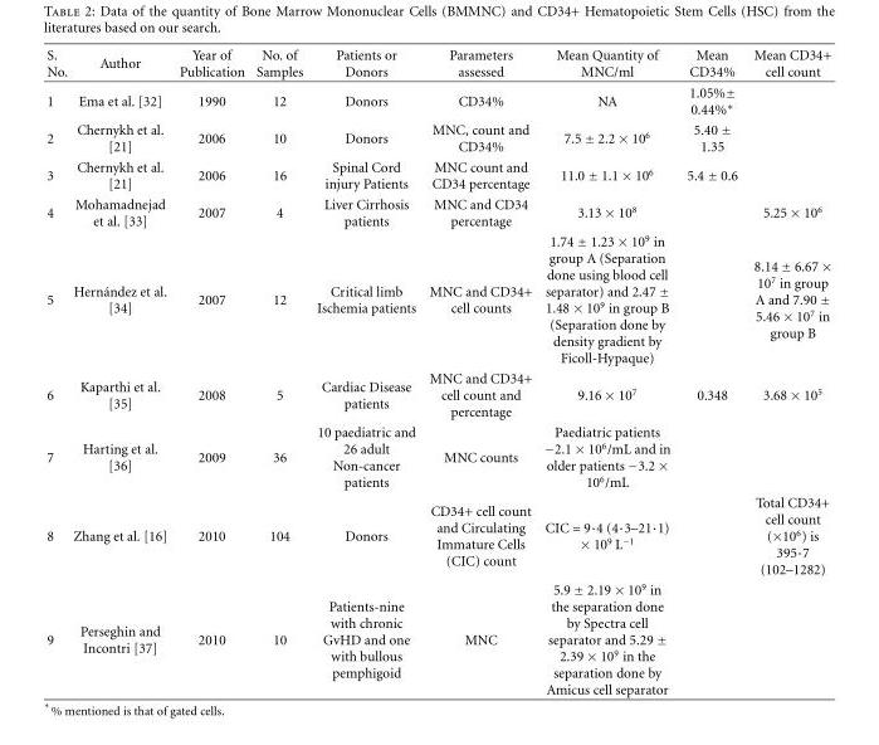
<table><thead><tr><td>S. No.</td><td>Author</td><td>Year of Publication</td><td>No. of Samples</td><td>Patients or Donors</td><td>Parameters assessed</td><td>Mean Quantity of MNC/ml</td><td>Mean CD34%</td><td>Mean CD34+ cell count</td></tr></thead><tbody><tr><td>1</td><td>Ema et al. [32]</td><td>1990</td><td>12</td><td>Donors</td><td>CD34%</td><td>NA</td><td>1.05%± 0.44%∗</td><td></td></tr><tr><td>2</td><td>Chernykh et al. [21]</td><td>2006</td><td>10</td><td>Donors</td><td>MNC, count and CD34%</td><td>7.5 ± 2.2 × 10<sup>6</sup></td><td>5.40 ± 1.35</td><td></td></tr><tr><td>3</td><td>Chernykh et al. [21]</td><td>2006</td><td>16</td><td>Spinal Cord injury Patients</td><td>MNC count and CD34 percentage</td><td>11.0 ± 1.1 × 10<sup>6</sup></td><td>5.4 ± 0.6</td><td></td></tr><tr><td>4</td><td>Mohamadnejad et al. [33]</td><td>2007</td><td>4</td><td>Liver Cirrhosis patients</td><td>MNC and CD34 percentage</td><td>3.13 × 10<sup>8</sup></td><td></td><td>5.25 × 10<sup>6</sup></td></tr><tr><td>5</td><td>Hern´andez et al. [34]</td><td>2007</td><td>12</td><td>Critical limb Ischemia patients</td><td>MNC and CD34+ cell counts</td><td>1.74 ± 1.23 × 10<sup>9</sup> in group A (Separation done using blood cell separator) and 2.47 ± 1.48 × 10<sup>9</sup> in group B (Separation done by density gradient by Ficoll-Hypaque)</td><td></td><td>8.14 ± 6.67 × 10<sup>7</sup> in group A and 7.90 ± 5.46 × 10<sup>7</sup> in group B</td></tr><tr><td>6</td><td>Kaparthi et al. [35]</td><td>2008</td><td>5</td><td>Cardiac Disease patients</td><td>MNC and CD34+ cell count and percentage</td><td>9.16 × 10<sup>7</sup></td><td>0.348</td><td>3.68 × 10<sup>5</sup></td></tr><tr><td>7</td><td>Harting et al. [36]</td><td>2009</td><td>36</td><td>10 paediatric and 26 adult Non-cancer patients</td><td>MNC counts</td><td>Paediatric patients −2.1 × 10<sup>6</sup>/mL and in older patients −3.2 × 10<sup>6</sup>/mL</td><td></td><td></td></tr><tr><td>8</td><td>Zhang et al. [16]</td><td>2010</td><td>104</td><td>Donors</td><td>CD34+ cell count and Circulating Immature Cells (CIC) count</td><td>CIC = 9·4 (4·3–21·1) × 10<sup>9</sup> L<sup>−1</sup></td><td></td><td>Total CD34+ cell count (×10<sup>6</sup>) is 395·7 (102–1282)</td></tr><tr><td>9</td><td>Perseghin and Incontri [37]</td><td>2010</td><td>10</td><td>Patients-nine with chronic GvHD and one with bullous pemphigoid</td><td>MNC</td><td>5.9 ± 2.19 × 10<sup>9</sup> in the separation done by Spectra cell separator and 5.29 ± 2.39 × 10<sup>9</sup> in the separation done by Amicus cell separator</td><td></td><td></td></tr></tbody></table>